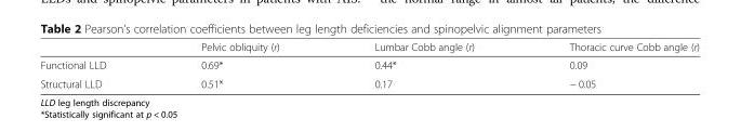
<table><thead><tr><td></td><td>Pelvic obliquity (r)</td><td>Lumbar Cobb angle (r)</td><td>Thoracic curve Cobb angle (r)</td></tr></thead><tbody><tr><td>Functional LLD</td><td>0.69*</td><td>0.44*</td><td>0.09</td></tr><tr><td>Structural LLD</td><td>0.51*</td><td>0.17</td><td>− 0.05</td></tr></tbody></table>